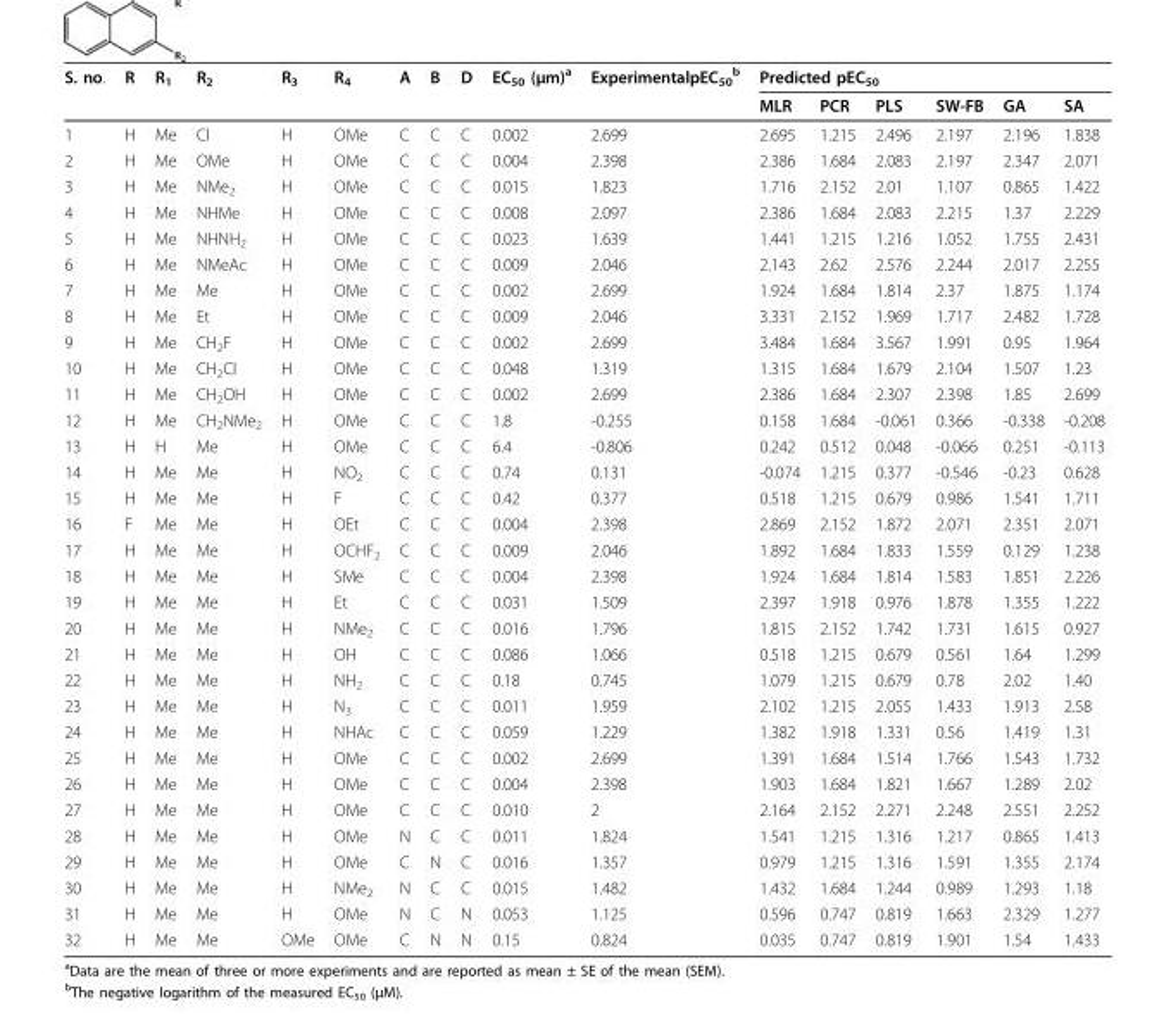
<table><tbody><tr><td rowspan="2">S. no.</td><td>R</td><td>R<sub>1</sub></td><td>R<sub>2</sub></td><td>R<sub>3</sub></td><td>R<sub>4</sub></td><td>A</td><td>B</td><td>D</td><td>EC<sub>50</sub> (μm)<sup>a</sup></td><td>ExperimentalpEC<sub>50</sub> <sup>b</sup></td><td colspan="6">Predicted pEC<sub>50</sub></td></tr><tr><td></td><td></td><td></td><td></td><td></td><td></td><td></td><td></td><td></td><td></td><td>MLR</td><td>PCR</td><td>PLS</td><td>SW-FB</td><td>GA</td><td>SA</td></tr><tr><td>1</td><td>H</td><td>Me</td><td>Cl</td><td>H</td><td>OMe</td><td>C</td><td>C</td><td>C</td><td>0.002</td><td>2.699</td><td>2.695</td><td>1.215</td><td>2.496</td><td>2.197</td><td>2.196</td><td>1.838</td></tr><tr><td>2</td><td>H</td><td>Me</td><td>OMe</td><td>H</td><td>OMe</td><td>C</td><td>C</td><td>C</td><td>0.004</td><td>2.398</td><td>2.386</td><td>1.684</td><td>2.083</td><td>2.197</td><td>2.347</td><td>2.071</td></tr><tr><td>3</td><td>H</td><td>Me</td><td>NMe<sub>2</sub></td><td>H</td><td>OMe</td><td>C</td><td>C</td><td>C</td><td>0.015</td><td>1.823</td><td>1.716</td><td>2.152</td><td>2.01</td><td>1.107</td><td>0.865</td><td>1.422</td></tr><tr><td>4</td><td>H</td><td>Me</td><td>NHMe</td><td>H</td><td>OMe</td><td>C</td><td>C</td><td>C</td><td>0.008</td><td>2.097</td><td>2.386</td><td>1.684</td><td>2.083</td><td>2.215</td><td>1.37</td><td>2.229</td></tr><tr><td>5</td><td>H</td><td>Me</td><td>NHNH<sub>2</sub></td><td>H</td><td>OMe</td><td>C</td><td>C</td><td>C</td><td>0.023</td><td>1.639</td><td>1.441</td><td>1.215</td><td>1.216</td><td>1.052</td><td>1.755</td><td>2.431</td></tr><tr><td>6</td><td>H</td><td>Me</td><td>NMeAc</td><td>H</td><td>OMe</td><td>C</td><td>C</td><td>C</td><td>0.009</td><td>2.046</td><td>2.143</td><td>2.62</td><td>2.576</td><td>2.244</td><td>2.017</td><td>2.255</td></tr><tr><td>7</td><td>H</td><td>Me</td><td>Me</td><td>H</td><td>OMe</td><td>C</td><td>C</td><td>C</td><td>0.002</td><td>2.699</td><td>1.924</td><td>1.684</td><td>1.814</td><td>2.37</td><td>1.875</td><td>1.174</td></tr><tr><td>8</td><td>H</td><td>Me</td><td>Et</td><td>H</td><td>OMe</td><td>C</td><td>C</td><td>C</td><td>0.009</td><td>2.046</td><td>3.331</td><td>2.152</td><td>1.969</td><td>1.717</td><td>2.482</td><td>1.728</td></tr><tr><td>9</td><td>H</td><td>Me</td><td>CH<sub>2</sub>F</td><td>H</td><td>OMe</td><td>C</td><td>C</td><td>C</td><td>0.002</td><td>2.699</td><td>3.484</td><td>1.684</td><td>3.567</td><td>1.991</td><td>0.95</td><td>1.964</td></tr><tr><td>10</td><td>H</td><td>Me</td><td>CH<sub>2</sub>Cl</td><td>H</td><td>OMe</td><td>C</td><td>C</td><td>C</td><td>0.048</td><td>1.319</td><td>1.315</td><td>1.684</td><td>1.679</td><td>2.104</td><td>1.507</td><td>1.23</td></tr><tr><td>11</td><td>H</td><td>Me</td><td>CH<sub>2</sub>OH</td><td>H</td><td>OMe</td><td>C</td><td>C</td><td>C</td><td>0.002</td><td>2.699</td><td>2.386</td><td>1.684</td><td>2.307</td><td>2.398</td><td>1.85</td><td>2.699</td></tr><tr><td>12</td><td>H</td><td>Me</td><td>CH<sub>2</sub>NMe<sub>2</sub></td><td>H</td><td>OMe</td><td>C</td><td>C</td><td>C</td><td>1.8</td><td>-0.255</td><td>0.158</td><td>1.684</td><td>-0.061</td><td>0.366</td><td>-0.338</td><td>-0.208</td></tr><tr><td>13</td><td>H</td><td>H</td><td>Me</td><td>H</td><td>OMe</td><td>C</td><td>C</td><td>C</td><td>6.4</td><td>-0.806</td><td>0.242</td><td>0.512</td><td>0.048</td><td>-0.066</td><td>0.251</td><td>-0.113</td></tr><tr><td>14</td><td>H</td><td>Me</td><td>Me</td><td>H</td><td>NO<sub>2</sub></td><td>C</td><td>C</td><td>C</td><td>0.74</td><td>0.131</td><td>-0.074</td><td>1.215</td><td>0.377</td><td>-0.546</td><td>-0.23</td><td>0.628</td></tr><tr><td>15</td><td>H</td><td>Me</td><td>Me</td><td>H</td><td>F</td><td>C</td><td>C</td><td>C</td><td>0.42</td><td>0.377</td><td>0.518</td><td>1.215</td><td>0.679</td><td>0.986</td><td>1.541</td><td>1.711</td></tr><tr><td>16</td><td>F</td><td>Me</td><td>Me</td><td>H</td><td>OEt</td><td>C</td><td>C</td><td>C</td><td>0.004</td><td>2.398</td><td>2.869</td><td>2.152</td><td>1.872</td><td>2.071</td><td>2.351</td><td>2.071</td></tr><tr><td>17</td><td>H</td><td>Me</td><td>Me</td><td>H</td><td>OCHF<sub>2</sub></td><td>C</td><td>C</td><td>C</td><td>0.009</td><td>2.046</td><td>1.892</td><td>1.684</td><td>1.833</td><td>1.559</td><td>0.129</td><td>1.238</td></tr><tr><td>18</td><td>H</td><td>Me</td><td>Me</td><td>H</td><td>SMe</td><td>C</td><td>C</td><td>C</td><td>0.004</td><td>2.398</td><td>1.924</td><td>1.684</td><td>1.814</td><td>1.583</td><td>1.851</td><td>2.226</td></tr><tr><td>19</td><td>H</td><td>Me</td><td>Me</td><td>H</td><td>Et</td><td>C</td><td>C</td><td>C</td><td>0.031</td><td>1.509</td><td>2.397</td><td>1.918</td><td>0.976</td><td>1.878</td><td>1.355</td><td>1.222</td></tr><tr><td>20</td><td>H</td><td>Me</td><td>Me</td><td>H</td><td>NMe<sub>2</sub></td><td>C</td><td>C</td><td>C</td><td>0.016</td><td>1.796</td><td>1.815</td><td>2.152</td><td>1.742</td><td>1.731</td><td>1.615</td><td>0.927</td></tr><tr><td>21</td><td>H</td><td>Me</td><td>Me</td><td>H</td><td>OH</td><td>C</td><td>C</td><td>C</td><td>0.086</td><td>1.066</td><td>0.518</td><td>1.215</td><td>0.679</td><td>0.561</td><td>1.64</td><td>1.299</td></tr><tr><td>22</td><td>H</td><td>Me</td><td>Me</td><td>H</td><td>NH<sub>2</sub></td><td>C</td><td>C</td><td>C</td><td>0.18</td><td>0.745</td><td>1.079</td><td>1.215</td><td>0.679</td><td>0.78</td><td>2.02</td><td>1.40</td></tr><tr><td>23</td><td>H</td><td>Me</td><td>Me</td><td>H</td><td>N<sub>3</sub></td><td>C</td><td>C</td><td>C</td><td>0.011</td><td>1.959</td><td>2.102</td><td>1.215</td><td>2.055</td><td>1.433</td><td>1.913</td><td>2.58</td></tr><tr><td>24</td><td>H</td><td>Me</td><td>Me</td><td>H</td><td>NHAc</td><td>C</td><td>C</td><td>C</td><td>0.059</td><td>1.229</td><td>1.382</td><td>1.918</td><td>1.331</td><td>0.56</td><td>1.419</td><td>1.31</td></tr><tr><td>25</td><td>H</td><td>Me</td><td>Me</td><td>H</td><td>OMe</td><td>C</td><td>C</td><td>C</td><td>0.002</td><td>2.699</td><td>1.391</td><td>1.684</td><td>1.514</td><td>1.766</td><td>1.543</td><td>1.732</td></tr><tr><td>26</td><td>H</td><td>Me</td><td>Me</td><td>H</td><td>OMe</td><td>C</td><td>C</td><td>C</td><td>0.004</td><td>2.398</td><td>1.903</td><td>1.684</td><td>1.821</td><td>1.667</td><td>1.289</td><td>2.02</td></tr><tr><td>27</td><td>H</td><td>Me</td><td>Me</td><td>H</td><td>OMe</td><td>C</td><td>C</td><td>C</td><td>0.010</td><td>2</td><td>2.164</td><td>2.152</td><td>2.271</td><td>2.248</td><td>2.551</td><td>2.252</td></tr><tr><td>28</td><td>H</td><td>Me</td><td>Me</td><td>H</td><td>OMe</td><td>N</td><td>C</td><td>C</td><td>0.011</td><td>1.824</td><td>1.541</td><td>1.215</td><td>1.316</td><td>1.217</td><td>0.865</td><td>1.413</td></tr><tr><td>29</td><td>H</td><td>Me</td><td>Me</td><td>H</td><td>OMe</td><td>C</td><td>N</td><td>C</td><td>0.016</td><td>1.357</td><td>0.979</td><td>1.215</td><td>1.316</td><td>1.591</td><td>1.355</td><td>2.174</td></tr><tr><td>30</td><td>H</td><td>Me</td><td>Me</td><td>H</td><td>NMe<sub>2</sub></td><td>N</td><td>C</td><td>C</td><td>0.015</td><td>1.482</td><td>1.432</td><td>1.684</td><td>1.244</td><td>0.989</td><td>1.293</td><td>1.18</td></tr><tr><td>31</td><td>H</td><td>Me</td><td>Me</td><td>H</td><td>OMe</td><td>N</td><td>C</td><td>N</td><td>0.053</td><td>1.125</td><td>0.596</td><td>0.747</td><td>0.819</td><td>1.663</td><td>2.329</td><td>1.277</td></tr><tr><td>32</td><td>H</td><td>Me</td><td>Me</td><td>OMe</td><td>OMe</td><td>C</td><td>N</td><td>N</td><td>0.15</td><td>0.824</td><td>0.035</td><td>0.747</td><td>0.819</td><td>1.901</td><td>1.54</td><td>1.433</td></tr></tbody></table>